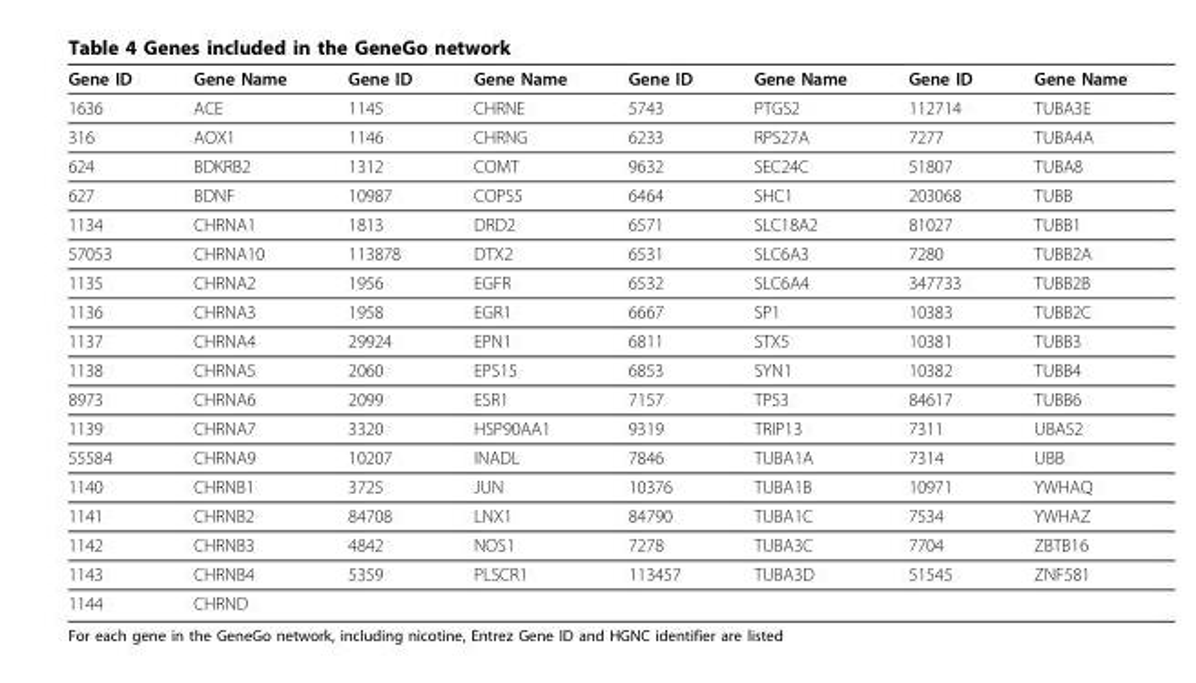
<table><thead><tr><td>Gene ID</td><td>Gene Name</td><td>Gene ID</td><td>Gene Name</td><td>Gene ID</td><td>Gene Name</td><td>Gene ID</td><td>Gene Name</td></tr></thead><tbody><tr><td>1636</td><td>ACE</td><td>1145</td><td>CHRNE</td><td>5743</td><td>PTGS2</td><td>112714</td><td>TUBA3E</td></tr><tr><td>316</td><td>AOX1</td><td>1146</td><td>CHRNG</td><td>6233</td><td>RPS27A</td><td>7277</td><td>TUBA4A</td></tr><tr><td>624</td><td>BDKRB2</td><td>1312</td><td>COMT</td><td>9632</td><td>SEC24C</td><td>51807</td><td>TUBA8</td></tr><tr><td>627</td><td>BDNF</td><td>10987</td><td>COPS5</td><td>6464</td><td>SHC1</td><td>203068</td><td>TUBB</td></tr><tr><td>1134</td><td>CHRNA1</td><td>1813</td><td>DRD2</td><td>6571</td><td>SLC18A2</td><td>81027</td><td>TUBB1</td></tr><tr><td>57053</td><td>CHRNA10</td><td>113878</td><td>DTX2</td><td>6531</td><td>SLC6A3</td><td>7280</td><td>TUBB2A</td></tr><tr><td>1135</td><td>CHRNA2</td><td>1956</td><td>EGFR</td><td>6532</td><td>SLC6A4</td><td>347733</td><td>TUBB2B</td></tr><tr><td>1136</td><td>CHRNA3</td><td>1958</td><td>EGR1</td><td>6667</td><td>SP1</td><td>10383</td><td>TUBB2C</td></tr><tr><td>1137</td><td>CHRNA4</td><td>29924</td><td>EPN1</td><td>6811</td><td>STX5</td><td>10381</td><td>TUBB3</td></tr><tr><td>1138</td><td>CHRNA5</td><td>2060</td><td>EPS15</td><td>6853</td><td>SYN1</td><td>10382</td><td>TUBB4</td></tr><tr><td>8973</td><td>CHRNA6</td><td>2099</td><td>ESR1</td><td>7157</td><td>TP53</td><td>84617</td><td>TUBB6</td></tr><tr><td>1139</td><td>CHRNA7</td><td>3320</td><td>HSP90AA1</td><td>9319</td><td>TRIP13</td><td>7311</td><td>UBA52</td></tr><tr><td>55584</td><td>CHRNA9</td><td>10207</td><td>INADL</td><td>7846</td><td>TUBA1A</td><td>7314</td><td>UBB</td></tr><tr><td>1140</td><td>CHRNB1</td><td>3725</td><td>JUN</td><td>10376</td><td>TUBA1B</td><td>10971</td><td>YWHAQ</td></tr><tr><td>1141</td><td>CHRNB2</td><td>84708</td><td>LNX1</td><td>84790</td><td>TUBA1C</td><td>7534</td><td>YWHAZ</td></tr><tr><td>1142</td><td>CHRNB3</td><td>4842</td><td>NOS1</td><td>7278</td><td>TUBA3C</td><td>7704</td><td>ZBTB16</td></tr><tr><td>1143</td><td>CHRNB4</td><td>5359</td><td>PLSCR1</td><td>113457</td><td>TUBA3D</td><td>51545</td><td>ZNF581</td></tr><tr><td>1144</td><td>CHRND</td><td></td><td></td><td></td><td></td><td></td><td></td></tr></tbody></table>